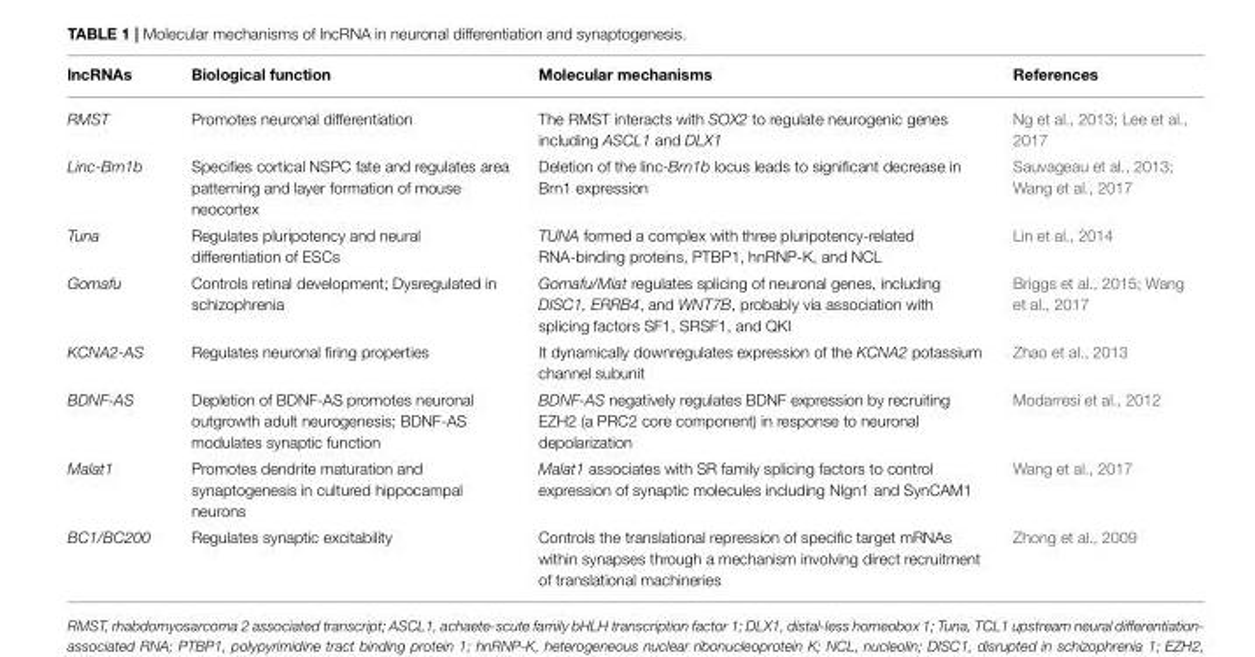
<table><thead><tr><td>lncRNAs</td><td>Biological function</td><td>Molecular mechanisms</td><td>References</td></tr></thead><tbody><tr><td>RMST</td><td>Promotes neuronal differentiation</td><td>The RMST interacts with SOX2 to regulate neurogenic genes including ASCL1 and DLX1</td><td>Ng et al., 2013; Lee et al., 2017</td></tr><tr><td>Linc-Brn1b</td><td>Specifies cortical NSPC fate and regulates area patterning and layer formation of mouse neocortex</td><td>Deletion of the linc-Brn1b locus leads to significant decrease in Brn1 expression</td><td>Sauvageau et al., 2013; Wang et al., 2017</td></tr><tr><td>Tuna</td><td>Regulates pluripotency and neural differentiation of ESCs</td><td>TUNA formed a complex with three pluripotency-related RNA-binding proteins, PTBP1, hnRNP-K, and NCL</td><td>Lin et al., 2014</td></tr><tr><td>Gomafu</td><td>Controls retinal development; Dysregulated in schizophrenia</td><td>Gomafu/Miat regulates splicing of neuronal genes, including DISC1, ERRB4, and WNT7B, probably via association with splicing factors SF1, SRSF1, and QKI</td><td>Briggs et al., 2015; Wang et al., 2017</td></tr><tr><td>KCNA2-AS</td><td>Regulates neuronal firing properties</td><td>It dynamically downregulates expression of the KCNA2 potassium channel subunit</td><td>Zhao et al., 2013</td></tr><tr><td>BDNF-AS</td><td>Depletion of BDNF-AS promotes neuronal outgrowth adult neurogenesis; BDNF-AS modulates synaptic function</td><td>BDNF-AS negatively regulates BDNF expression by recruiting EZH2 (a PRC2 core component) in response to neuronal depolarization</td><td>Modarresi et al., 2012</td></tr><tr><td>Malat1</td><td>Promotes dendrite maturation and synaptogenesis in cultured hippocampal neurons</td><td>Malat1 associates with SR family splicing factors to control expression of synaptic molecules including Nlgn1 and SynCAM1</td><td>Wang et al., 2017</td></tr><tr><td>BC1/BC200</td><td>Regulates synaptic excitability</td><td>Controls the translational repression of specific target mRNAs within synapses through a mechanism involving direct recruitment of translational machineries</td><td>Zhong et al., 2009</td></tr></tbody></table>